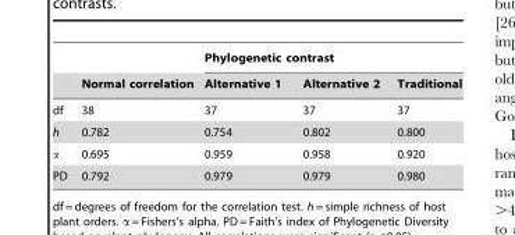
<table><thead><tr><td rowspan="2"></td><td rowspan="2">Normal correlation</td><td colspan="3">Phylogenetic contrast</td></tr><tr><td>Alternative 1</td><td>Alternative 2</td><td>Traditional</td></tr></thead><tbody><tr><td>df</td><td>38</td><td>37</td><td>37</td><td>37</td></tr><tr><td>h</td><td>0.782</td><td>0.754</td><td>0.802</td><td>0.800</td></tr><tr><td>α</td><td>0.695</td><td>0.959</td><td>0.958</td><td>0.920</td></tr><tr><td>PD</td><td>0.792</td><td>0.979</td><td>0.979</td><td>0.980</td></tr></tbody></table>